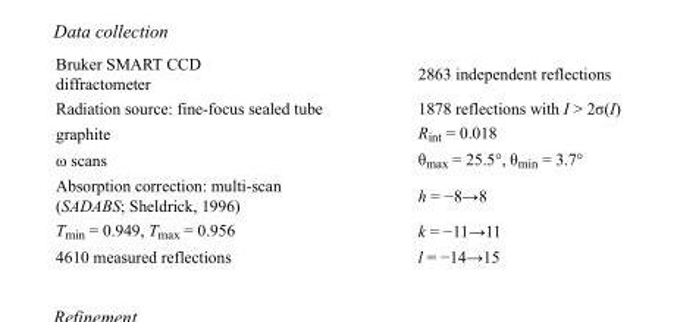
<table><tbody><tr><td>Bruker SMART CCD diffractometer</td><td>2863 independent reflections</td></tr><tr><td>Radiation source: fine-focus sealed tube</td><td>1878 reflections with I &gt; 2σ(I)</td></tr><tr><td>graphite</td><td>R<sub>int</sub> = 0.018</td></tr><tr><td>ω scans</td><td>θ<sub>max</sub> = 25.5°, θ<sub>min</sub> = 3.7°</td></tr><tr><td>Absorption correction: multi-scan (SADABS; Sheldrick, 1996)</td><td>h = −8→8</td></tr><tr><td>T<sub>min</sub> = 0.949, T<sub>max</sub> = 0.956</td><td>k = −11→11</td></tr><tr><td>4610 measured reflections</td><td>l = −14→15</td></tr></tbody></table>